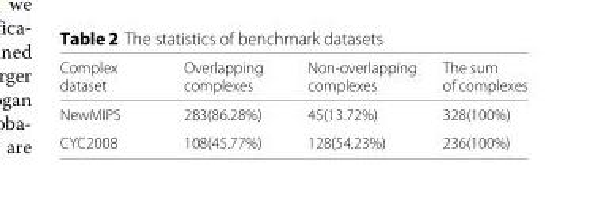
<table><thead><tr><td>Complex dataset</td><td>Overlapping complexes</td><td>Non-overlapping complexes</td><td>The sum of complexes</td></tr></thead><tbody><tr><td>NewMIPS</td><td>283(86.28%)</td><td>45(13.72%)</td><td>328(100%)</td></tr><tr><td>CYC2008</td><td>108(45.77%)</td><td>128(54.23%)</td><td>236(100%)</td></tr></tbody></table>